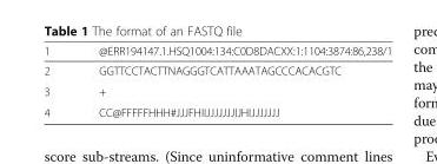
<table><thead><tr><td>1</td><td>@ERR194147.1.HSQ1004:134:C0D8DACXX:1:1104:3874:86,238/1</td></tr></thead><tbody><tr><td>2</td><td>GGTTCCTACTTNAGGGTCATTAAATAGCCCACACGTC</td></tr><tr><td>3</td><td>+</td></tr><tr><td>4</td><td>CC@FFFFFHHH#JJJFHIIJJJJJJJIJHIJJJJJJJ</td></tr></tbody></table>